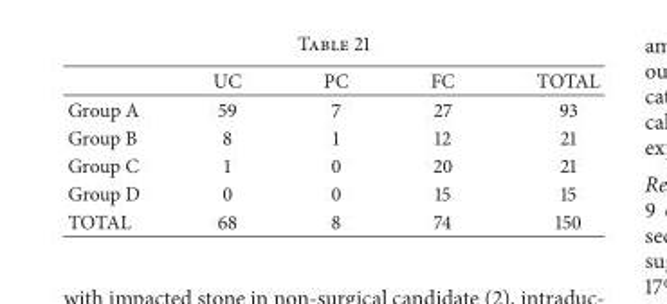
<table><thead><tr><td></td><td>UC</td><td>PC</td><td>FC</td><td>TOTAL</td></tr></thead><tbody><tr><td>Group A</td><td>59</td><td>7</td><td>27</td><td>93</td></tr><tr><td>Group B</td><td>8</td><td>1</td><td>12</td><td>21</td></tr><tr><td>Group C</td><td>1</td><td>0</td><td>20</td><td>21</td></tr><tr><td>Group D</td><td>0</td><td>0</td><td>15</td><td>15</td></tr><tr><td>TOTAL</td><td>68</td><td>8</td><td>74</td><td>150</td></tr></tbody></table>